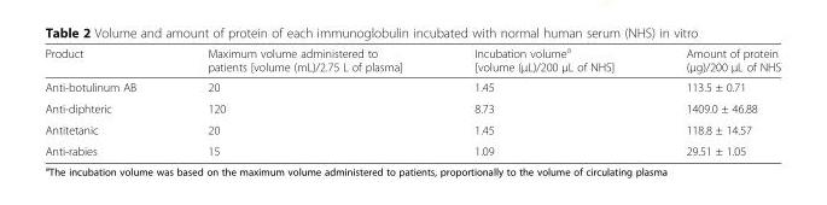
<table><thead><tr><td>Product</td><td>Maximum volume administered to patients [volume (mL)/2.75 L of plasma]</td><td>Incubation volume<sup>a</sup> [volume (μL)/200 μL of NHS]</td><td>Amount of protein (μg)/200 μL of NHS</td></tr></thead><tbody><tr><td>Anti-botulinum AB</td><td>20</td><td>1.45</td><td>113.5 ± 0.71</td></tr><tr><td>Anti-diphteric</td><td>120</td><td>8.73</td><td>1409.0 ± 46.88</td></tr><tr><td>Antitetanic</td><td>20</td><td>1.45</td><td>118.8 ± 14.57</td></tr><tr><td>Anti-rabies</td><td>15</td><td>1.09</td><td>29.51 ± 1.05</td></tr></tbody></table>